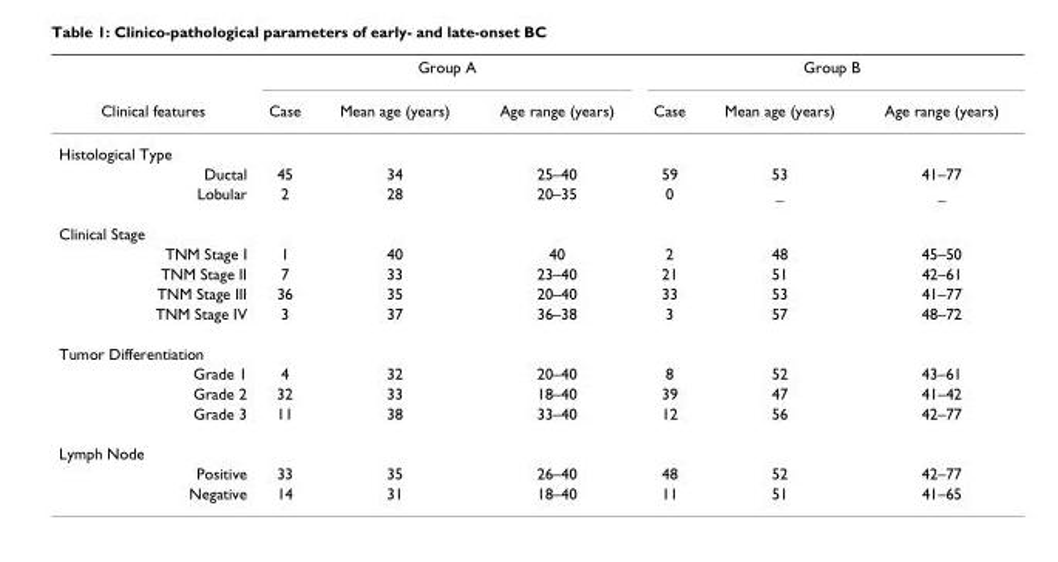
<table><thead><tr><td rowspan="2">Clinical features</td><td colspan="3">Group A</td><td colspan="3">Group B</td></tr><tr><td>Case</td><td>Mean age (years)</td><td>Age range (years)</td><td>Case</td><td>Mean age (years)</td><td>Age range (years)</td></tr></thead><tbody><tr><td colspan="7">Histological Type</td></tr><tr><td>Ductal</td><td>45</td><td>34</td><td>25–40</td><td>59</td><td>53</td><td>41–77</td></tr><tr><td>Lobular</td><td>2</td><td>28</td><td>20–35</td><td>0</td><td>_</td><td>_</td></tr><tr><td colspan="7">Clinical Stage</td></tr><tr><td>TNM Stage I</td><td>1</td><td>40</td><td>40</td><td>2</td><td>48</td><td>45–50</td></tr><tr><td>TNM Stage II</td><td>7</td><td>33</td><td>23–40</td><td>21</td><td>51</td><td>42–61</td></tr><tr><td>TNM Stage III</td><td>36</td><td>35</td><td>20–40</td><td>33</td><td>53</td><td>41–77</td></tr><tr><td>TNM Stage IV</td><td>3</td><td>37</td><td>36–38</td><td>3</td><td>57</td><td>48–72</td></tr><tr><td colspan="7">Tumor Differentiation</td></tr><tr><td>Grade 1</td><td>4</td><td>32</td><td>20–40</td><td>8</td><td>52</td><td>43–61</td></tr><tr><td>Grade 2</td><td>32</td><td>33</td><td>18–40</td><td>39</td><td>47</td><td>41–42</td></tr><tr><td>Grade 3</td><td>11</td><td>38</td><td>33–40</td><td>12</td><td>56</td><td>42–77</td></tr><tr><td colspan="7">Lymph Node</td></tr><tr><td>Positive</td><td>33</td><td>35</td><td>26–40</td><td>48</td><td>52</td><td>42–77</td></tr><tr><td>Negative</td><td>14</td><td>31</td><td>18–40</td><td>11</td><td>51</td><td>41–65</td></tr></tbody></table>